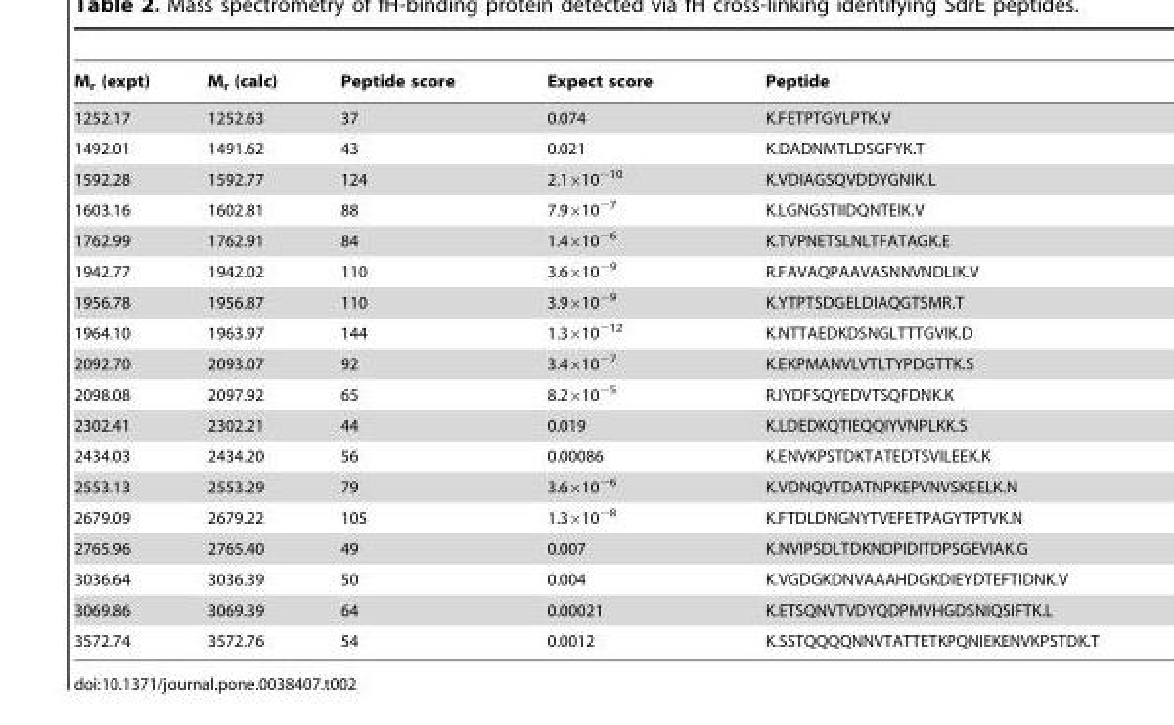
<table><thead><tr><td>M<sub>r</sub> (expt)</td><td>M<sub>r</sub> (calc)</td><td>Peptide score</td><td>Expect score</td><td>Peptide</td></tr></thead><tbody><tr><td>1252.17</td><td>1252.63</td><td>37</td><td>0.074</td><td>K.FETPTGYLPTK.V</td></tr><tr><td>1492.01</td><td>1491.62</td><td>43</td><td>0.021</td><td>K.DADNMTLDSGFYK.T</td></tr><tr><td>1592.28</td><td>1592.77</td><td>124</td><td>2.1×10<sup>−10</sup></td><td>K.VDIAGSQVDDYGNIK.L</td></tr><tr><td>1603.16</td><td>1602.81</td><td>88</td><td>7.9×10<sup>−7</sup></td><td>K.LGNGSTIIDQNTEIK.V</td></tr><tr><td>1762.99</td><td>1762.91</td><td>84</td><td>1.4×10<sup>−6</sup></td><td>K.TVPNETSLNLTFATAGK.E</td></tr><tr><td>1942.77</td><td>1942.02</td><td>110</td><td>3.6×10<sup>−9</sup></td><td>R.FAVAQPAAVASNNVNDLIK.V</td></tr><tr><td>1956.78</td><td>1956.87</td><td>110</td><td>3.9×10<sup>−9</sup></td><td>K.YTPTSDGELDIAQGTSMR.T</td></tr><tr><td>1964.10</td><td>1963.97</td><td>144</td><td>1.3×10<sup>−12</sup></td><td>K.NTTAEDKDSNGLTTTGVIK.D</td></tr><tr><td>2092.70</td><td>2093.07</td><td>92</td><td>3.4×10<sup>−7</sup></td><td>K.EKPMANVLVTLTYPDGTTK.S</td></tr><tr><td>2098.08</td><td>2097.92</td><td>65</td><td>8.2×10<sup>−5</sup></td><td>R.IYDFSQYEDVTSQFDNK.K</td></tr><tr><td>2302.41</td><td>2302.21</td><td>44</td><td>0.019</td><td>K.LDEDKQTIEQQIYVNPLKK.S</td></tr><tr><td>2434.03</td><td>2434.20</td><td>56</td><td>0.00086</td><td>K.ENVKPSTDKTATEDTSVILEEK.K</td></tr><tr><td>2553.13</td><td>2553.29</td><td>79</td><td>3.6×10<sup>−6</sup></td><td>K.VDNQVTDATNPKEPVNVSKEELK.N</td></tr><tr><td>2679.09</td><td>2679.22</td><td>105</td><td>1.3×10<sup>−8</sup></td><td>K.FTDLDNGNYTVEFETPAGYTPTVK.N</td></tr><tr><td>2765.96</td><td>2765.40</td><td>49</td><td>0.007</td><td>K.NVIPSDLTDKNDPIDITDPSGEVIAK.G</td></tr><tr><td>3036.64</td><td>3036.39</td><td>50</td><td>0.004</td><td>K.VGDGKDNVAAAHDGKDIEYDTEFTIDNK.V</td></tr><tr><td>3069.86</td><td>3069.39</td><td>64</td><td>0.00021</td><td>K.ETSQNVTVDYQDPMVHGDSNIQSIFTK.L</td></tr><tr><td>3572.74</td><td>3572.76</td><td>54</td><td>0.0012</td><td>K.SSTQQQQNNVTATTETKPQNIEKENVKPSTDK.T</td></tr></tbody></table>